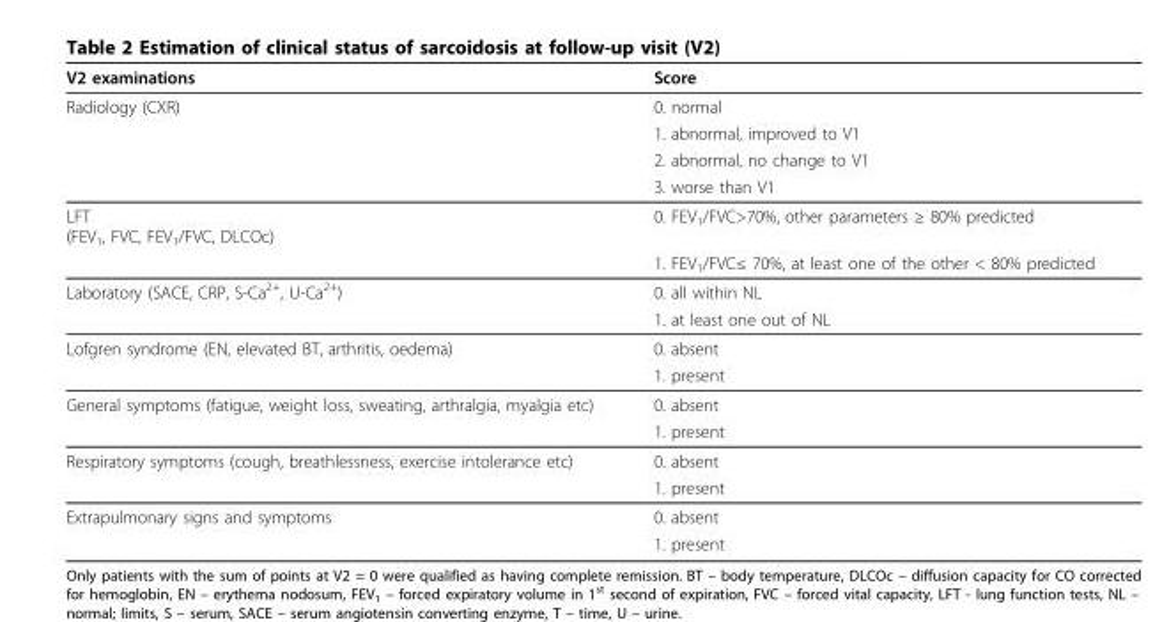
<table><thead><tr><td>V2 examinations</td><td>Score</td></tr></thead><tbody><tr><td rowspan="4">Radiology (CXR)</td><td>0. normal</td></tr><tr><td>1. abnormal, improved to V1</td></tr><tr><td>2. abnormal, no change to V1</td></tr><tr><td>3. worse than V1</td></tr><tr><td rowspan="2">LFT (FEV<sub>1</sub>, FVC, FEV<sub>1</sub>/FVC, DLCOc)</td><td>0. FEV<sub>1</sub>/FVC&gt;70%, other parameters ≥ 80% predicted</td></tr><tr><td>1. FEV<sub>1</sub>/FVC≤ 70%, at least one of the other &lt; 80% predicted</td></tr><tr><td rowspan="2">Laboratory (SACE, CRP, S-Ca<sup>2+</sup>, U-Ca<sup>2+</sup>)</td><td>0. all within NL</td></tr><tr><td>1. at least one out of NL</td></tr><tr><td rowspan="2">Lofgren syndrome (EN, elevated BT, arthritis, oedema)</td><td>0. absent</td></tr><tr><td>1. present</td></tr><tr><td rowspan="2">General symptoms (fatigue, weight loss, sweating, arthralgia, myalgia etc)</td><td>0. absent</td></tr><tr><td>1. present</td></tr><tr><td rowspan="2">Respiratory symptoms (cough, breathlessness, exercise intolerance etc)</td><td>0. absent</td></tr><tr><td>1. present</td></tr><tr><td rowspan="2">Extrapulmonary signs and symptoms</td><td>0. absent</td></tr><tr><td>1. present</td></tr></tbody></table>